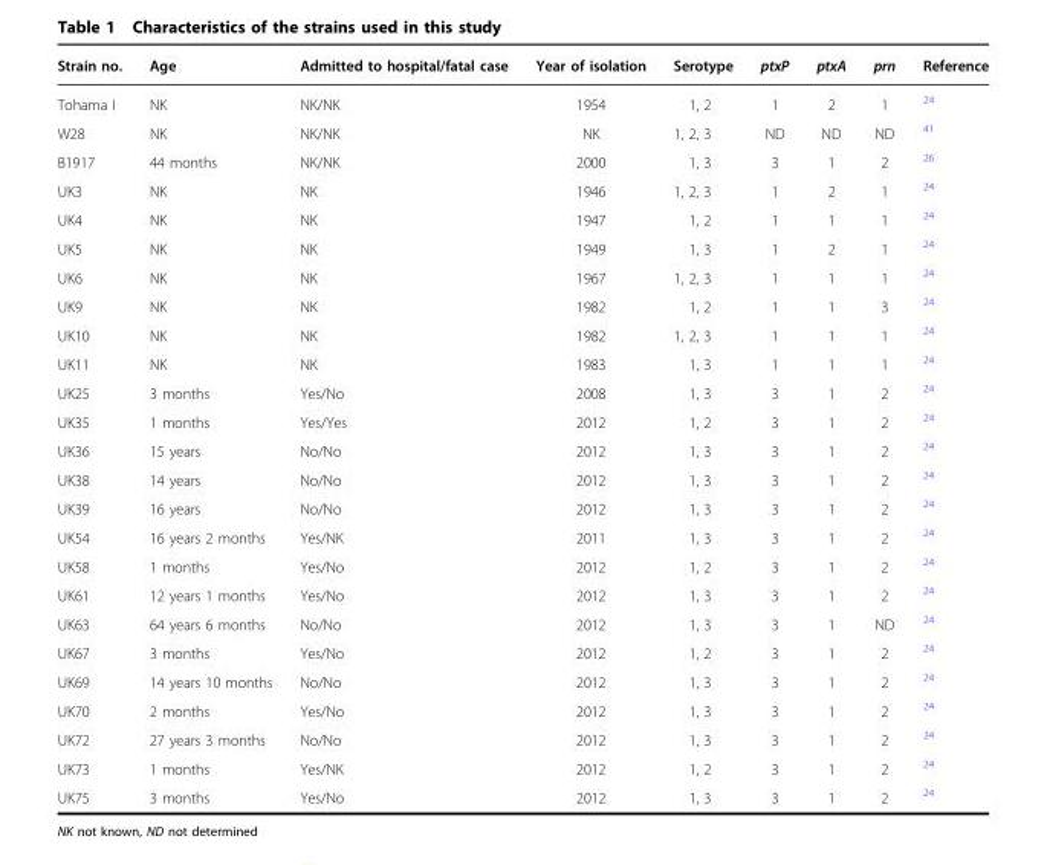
<table><thead><tr><td>Strain no.</td><td>Age</td><td>Admitted to hospital/fatal case</td><td>Year of isolation</td><td>Serotype</td><td>ptxP</td><td>ptxA</td><td>prn</td><td>Reference</td></tr></thead><tbody><tr><td>Tohama I</td><td>NK</td><td>NK/NK</td><td>1954</td><td>1, 2</td><td>1</td><td>2</td><td>1</td><td><sup>24</sup></td></tr><tr><td>W28</td><td>NK</td><td>NK/NK</td><td>NK</td><td>1, 2, 3</td><td>ND</td><td>ND</td><td>ND</td><td><sup>41</sup></td></tr><tr><td>B1917</td><td>44 months</td><td>NK/NK</td><td>2000</td><td>1, 3</td><td>3</td><td>1</td><td>2</td><td><sup>26</sup></td></tr><tr><td>UK3</td><td>NK</td><td>NK</td><td>1946</td><td>1, 2, 3</td><td>1</td><td>2</td><td>1</td><td><sup>24</sup></td></tr><tr><td>UK4</td><td>NK</td><td>NK</td><td>1947</td><td>1, 2</td><td>1</td><td>1</td><td>1</td><td><sup>24</sup></td></tr><tr><td>UK5</td><td>NK</td><td>NK</td><td>1949</td><td>1, 3</td><td>1</td><td>2</td><td>1</td><td><sup>24</sup></td></tr><tr><td>UK6</td><td>NK</td><td>NK</td><td>1967</td><td>1, 2, 3</td><td>1</td><td>1</td><td>1</td><td><sup>24</sup></td></tr><tr><td>UK9</td><td>NK</td><td>NK</td><td>1982</td><td>1, 2</td><td>1</td><td>1</td><td>3</td><td><sup>24</sup></td></tr><tr><td>UK10</td><td>NK</td><td>NK</td><td>1982</td><td>1, 2, 3</td><td>1</td><td>1</td><td>1</td><td><sup>24</sup></td></tr><tr><td>UK11</td><td>NK</td><td>NK</td><td>1983</td><td>1, 3</td><td>1</td><td>1</td><td>1</td><td><sup>24</sup></td></tr><tr><td>UK25</td><td>3 months</td><td>Yes/No</td><td>2008</td><td>1, 3</td><td>3</td><td>1</td><td>2</td><td><sup>24</sup></td></tr><tr><td>UK35</td><td>1 months</td><td>Yes/Yes</td><td>2012</td><td>1, 2</td><td>3</td><td>1</td><td>2</td><td><sup>24</sup></td></tr><tr><td>UK36</td><td>15 years</td><td>No/No</td><td>2012</td><td>1, 3</td><td>3</td><td>1</td><td>2</td><td><sup>24</sup></td></tr><tr><td>UK38</td><td>14 years</td><td>No/No</td><td>2012</td><td>1, 3</td><td>3</td><td>1</td><td>2</td><td><sup>24</sup></td></tr><tr><td>UK39</td><td>16 years</td><td>No/No</td><td>2012</td><td>1, 3</td><td>3</td><td>1</td><td>2</td><td><sup>24</sup></td></tr><tr><td>UK54</td><td>16 years 2 months</td><td>Yes/NK</td><td>2011</td><td>1, 3</td><td>3</td><td>1</td><td>2</td><td><sup>24</sup></td></tr><tr><td>UK58</td><td>1 months</td><td>Yes/No</td><td>2012</td><td>1, 2</td><td>3</td><td>1</td><td>2</td><td><sup>24</sup></td></tr><tr><td>UK61</td><td>12 years 1 months</td><td>Yes/No</td><td>2012</td><td>1, 3</td><td>3</td><td>1</td><td>2</td><td><sup>24</sup></td></tr><tr><td>UK63</td><td>64 years 6 months</td><td>No/No</td><td>2012</td><td>1, 3</td><td>3</td><td>1</td><td>ND</td><td><sup>24</sup></td></tr><tr><td>UK67</td><td>3 months</td><td>Yes/No</td><td>2012</td><td>1, 2</td><td>3</td><td>1</td><td>2</td><td><sup>24</sup></td></tr><tr><td>UK69</td><td>14 years 10 months</td><td>No/No</td><td>2012</td><td>1, 3</td><td>3</td><td>1</td><td>2</td><td><sup>24</sup></td></tr><tr><td>UK70</td><td>2 months</td><td>Yes/No</td><td>2012</td><td>1, 3</td><td>3</td><td>1</td><td>2</td><td><sup>24</sup></td></tr><tr><td>UK72</td><td>27 years 3 months</td><td>No/No</td><td>2012</td><td>1, 3</td><td>3</td><td>1</td><td>2</td><td><sup>24</sup></td></tr><tr><td>UK73</td><td>1 months</td><td>Yes/NK</td><td>2012</td><td>1, 2</td><td>3</td><td>1</td><td>2</td><td><sup>24</sup></td></tr><tr><td>UK75</td><td>3 months</td><td>Yes/No</td><td>2012</td><td>1, 3</td><td>3</td><td>1</td><td>2</td><td><sup>24</sup></td></tr></tbody></table>